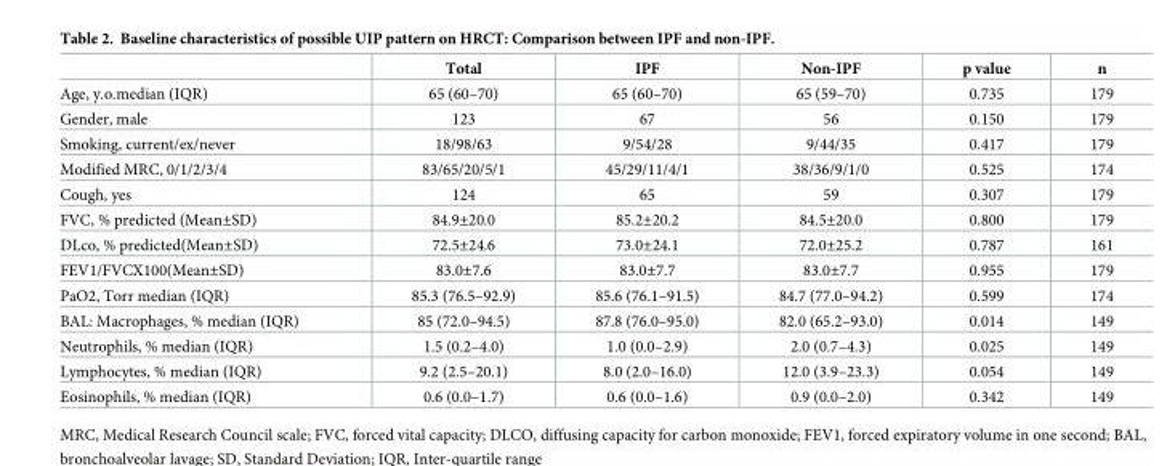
<table><thead><tr><td></td><td>Total</td><td>IPF</td><td>Non-IPF</td><td>p value</td><td>n</td></tr></thead><tbody><tr><td>Age, y.o.median (IQR)</td><td>65 (60–70)</td><td>65 (60–70)</td><td>65 (59–70)</td><td>0.735</td><td>179</td></tr><tr><td>Gender, male</td><td>123</td><td>67</td><td>56</td><td>0.150</td><td>179</td></tr><tr><td>Smoking, current/ex/never</td><td>18/98/63</td><td>9/54/28</td><td>9/44/35</td><td>0.417</td><td>179</td></tr><tr><td>Modified MRC, 0/1/2/3/4</td><td>83/65/20/5/1</td><td>45/29/11/4/1</td><td>38/36/9/1/0</td><td>0.525</td><td>174</td></tr><tr><td>Cough, yes</td><td>124</td><td>65</td><td>59</td><td>0.307</td><td>179</td></tr><tr><td>FVC, % predicted (Mean±SD)</td><td>84.9±20.0</td><td>85.2±20.2</td><td>84.5±20.0</td><td>0.800</td><td>179</td></tr><tr><td>DLco, % predicted(Mean±SD)</td><td>72.5±24.6</td><td>73.0±24.1</td><td>72.0±25.2</td><td>0.787</td><td>161</td></tr><tr><td>FEV1/FVCX100(Mean±SD)</td><td>83.0±7.6</td><td>83.0±7.7</td><td>83.0±7.7</td><td>0.955</td><td>179</td></tr><tr><td>PaO2, Torr median (IQR)</td><td>85.3 (76.5–92.9)</td><td>85.6 (76.1–91.5)</td><td>84.7 (77.0–94.2)</td><td>0.599</td><td>174</td></tr><tr><td>BAL: Macrophages, % median (IQR)</td><td>85 (72.0–94.5)</td><td>87.8 (76.0–95.0)</td><td>82.0 (65.2–93.0)</td><td>0.014</td><td>149</td></tr><tr><td>Neutrophils, % median (IQR)</td><td>1.5 (0.2–4.0)</td><td>1.0 (0.0–2.9)</td><td>2.0 (0.7–4.3)</td><td>0.025</td><td>149</td></tr><tr><td>Lymphocytes, % median (IQR)</td><td>9.2 (2.5–20.1)</td><td>8.0 (2.0–16.0)</td><td>12.0 (3.9–23.3)</td><td>0.054</td><td>149</td></tr><tr><td>Eosinophils, % median (IQR)</td><td>0.6 (0.0–1.7)</td><td>0.6 (0.0–1.6)</td><td>0.9 (0.0–2.0)</td><td>0.342</td><td>149</td></tr></tbody></table>